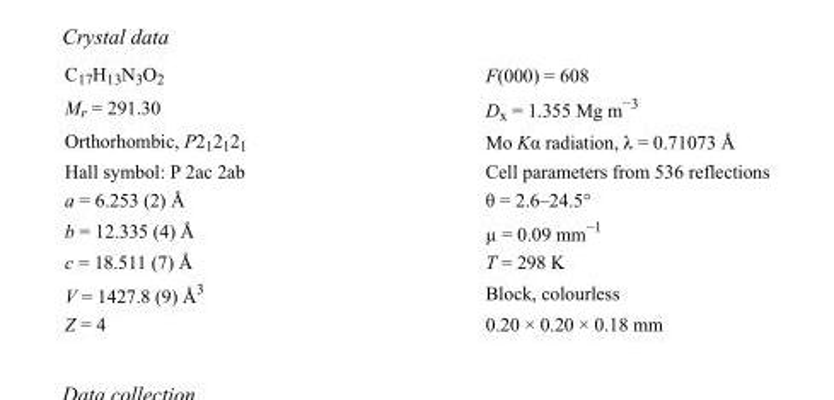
<table><tbody><tr><td>C<sub>17</sub>H<sub>13</sub>N<sub>3</sub>O<sub>2</sub></td><td>F(000) = 608</td></tr><tr><td>M<sub>r</sub> = 291.30</td><td>D<sub>x</sub> = 1.355 Mg m<sup>−3</sup></td></tr><tr><td>Orthorhombic, P2<sub>1</sub>2<sub>1</sub>2<sub>1</sub></td><td>Mo Kα radiation, λ = 0.71073 Å</td></tr><tr><td>Hall symbol: P 2ac 2ab</td><td>Cell parameters from 536 reflections</td></tr><tr><td>a = 6.253 (2) Å</td><td>θ = 2.6–24.5°</td></tr><tr><td>b = 12.335 (4) Å</td><td>µ = 0.09 mm<sup>−1</sup></td></tr><tr><td>c = 18.511 (7) Å</td><td>T = 298 K</td></tr><tr><td>V = 1427.8 (9) Å<sup>3</sup></td><td>Block, colourless</td></tr><tr><td>Z = 4</td><td>0.20 × 0.20 × 0.18 mm</td></tr></tbody></table>